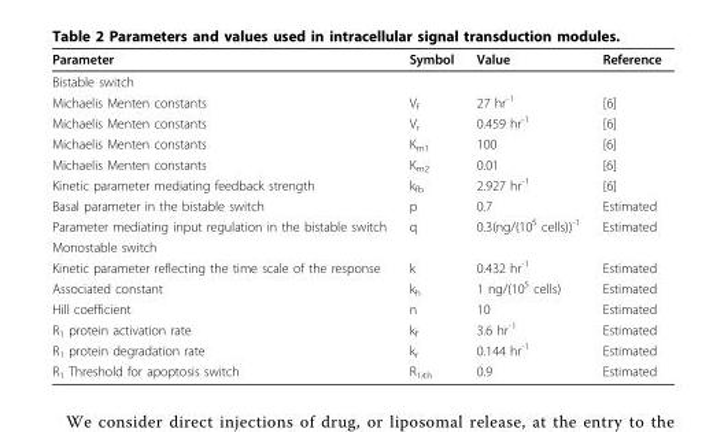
<table><thead><tr><td>Parameter</td><td>Symbol</td><td>Value</td><td>Reference</td></tr></thead><tbody><tr><td colspan="4">Bistable switch</td></tr><tr><td>Michaelis Menten constants</td><td>V<sub>f</sub></td><td>27 hr<sup>-1</sup></td><td>[6]</td></tr><tr><td>Michaelis Menten constants</td><td>V<sub>r</sub></td><td>0.459 hr<sup>-1</sup></td><td>[6]</td></tr><tr><td>Michaelis Menten constants</td><td>K<sub>m1</sub></td><td>100</td><td>[6]</td></tr><tr><td>Michaelis Menten constants</td><td>K<sub>m2</sub></td><td>0.01</td><td>[6]</td></tr><tr><td>Kinetic parameter mediating feedback strength</td><td>k<sub>fb</sub></td><td>2.927 hr<sup>-1</sup></td><td>[6]</td></tr><tr><td>Basal parameter in the bistable switch</td><td>p</td><td>0.7</td><td>Estimated</td></tr><tr><td>Parameter mediating input regulation in the bistable switch</td><td>q</td><td>0.3(ng/(10<sup>5</sup> cells))<sup>-1</sup></td><td>Estimated</td></tr><tr><td colspan="4">Monostable switch</td></tr><tr><td>Kinetic parameter reflecting the time scale of the response</td><td>k</td><td>0.432 hr<sup>-1</sup></td><td>Estimated</td></tr><tr><td>Associated constant</td><td>k<sub>h</sub></td><td>1 ng/(10<sup>5</sup> cells)</td><td>Estimated</td></tr><tr><td>Hill coefficient</td><td>n</td><td>10</td><td>Estimated</td></tr><tr><td>R<sub>1</sub> protein activation rate</td><td>k<sub>f</sub></td><td>3.6 hr<sup>-1</sup></td><td>Estimated</td></tr><tr><td>R<sub>1</sub> protein degradation rate</td><td>k<sub>r</sub></td><td>0.144 hr<sup>-1</sup></td><td>Estimated</td></tr><tr><td>R<sub>1</sub> Threshold for apoptosis switch</td><td>R<sub>1</sub>,<sub>th</sub></td><td>0.9</td><td>Estimated</td></tr></tbody></table>